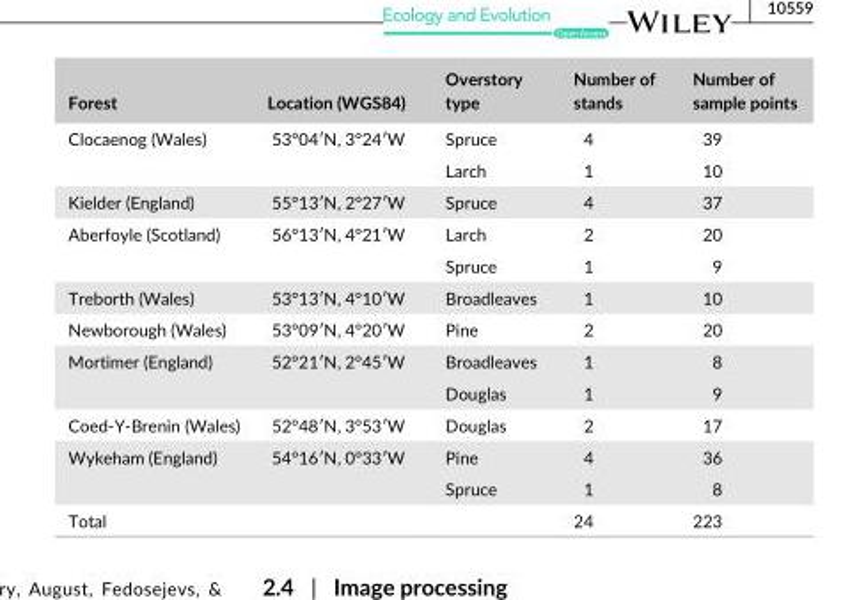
<table><thead><tr><td>Forest</td><td>Location (WGS84)</td><td>Overstory type</td><td>Number of stands</td><td>Number of sample points</td></tr></thead><tbody><tr><td rowspan="2">Clocaenog (Wales)</td><td rowspan="2">53°04′N, 3°24′W</td><td>Spruce</td><td>4</td><td>39</td></tr><tr><td>Larch</td><td>1</td><td>10</td></tr><tr><td>Kielder (England)</td><td>55°13′N, 2°27′W</td><td>Spruce</td><td>4</td><td>37</td></tr><tr><td rowspan="2">Aberfoyle (Scotland)</td><td rowspan="2">56°13′N, 4°21′W</td><td>Larch</td><td>2</td><td>20</td></tr><tr><td>Spruce</td><td>1</td><td>9</td></tr><tr><td>Treborth (Wales)</td><td>53°13′N, 4°10′W</td><td>Broadleaves</td><td>1</td><td>10</td></tr><tr><td>Newborough (Wales)</td><td>53°09′N, 4°20′W</td><td>Pine</td><td>2</td><td>20</td></tr><tr><td rowspan="2">Mortimer (England)</td><td rowspan="2">52°21′N, 2°45′W</td><td>Broadleaves</td><td>1</td><td>8</td></tr><tr><td>Douglas</td><td>1</td><td>9</td></tr><tr><td>Coed- Y- Brenin (Wales)</td><td>52°48′N, 3°53′W</td><td>Douglas</td><td>2</td><td>17</td></tr><tr><td rowspan="2">Wykeham (England)</td><td rowspan="2">54°16′N, 0°33′W</td><td>Pine</td><td>4</td><td>36</td></tr><tr><td>Spruce</td><td>1</td><td>8</td></tr><tr><td colspan="3">Total</td><td>24</td><td>223</td></tr></tbody></table>